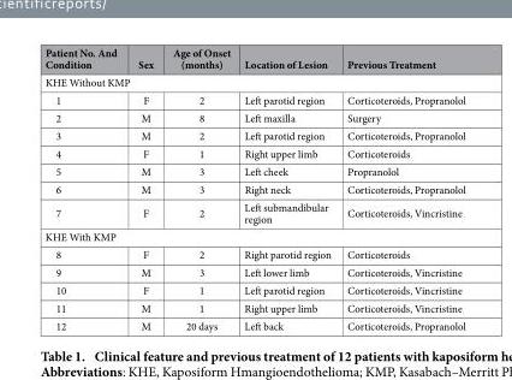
<table><thead><tr><td>Patient No. And Condition</td><td>Sex</td><td>Age of Onset (months)</td><td>Location of Lesion</td><td>Previous Treatment</td></tr></thead><tbody><tr><td colspan="5">KHE Without KMP</td></tr><tr><td>1</td><td>F</td><td>2</td><td>Left parotid region</td><td>Corticoteroids, Propranolol</td></tr><tr><td>2</td><td>M</td><td>8</td><td>Left maxilla</td><td>Surgery</td></tr><tr><td>3</td><td>M</td><td>2</td><td>Left parotid region</td><td>Corticoteroids, Propranolol</td></tr><tr><td>4</td><td>F</td><td>1</td><td>Right upper limb</td><td>Corticoteroids</td></tr><tr><td>5</td><td>M</td><td>3</td><td>Left cheek</td><td>Propranolol</td></tr><tr><td>6</td><td>M</td><td>3</td><td>Right neck</td><td>Corticoteroids, Propranolol</td></tr><tr><td>7</td><td>F</td><td>2</td><td>Left submandibular region</td><td>Corticoteroids, Vincristine</td></tr><tr><td colspan="5">KHE With KMP</td></tr><tr><td>8</td><td>F</td><td>2</td><td>Right parotid region</td><td>Corticoteroids</td></tr><tr><td>9</td><td>M</td><td>3</td><td>Left lower limb</td><td>Corticoteroids, Vincristine</td></tr><tr><td>10</td><td>F</td><td>1</td><td>Left parotid region</td><td>Corticoteroids, Vincristine</td></tr><tr><td>11</td><td>M</td><td>1</td><td>Right upper limb</td><td>Corticoteroids, Vincristine</td></tr><tr><td>12</td><td>M</td><td>20 days</td><td>Left back</td><td>Corticoteroids, Propranolol</td></tr></tbody></table>